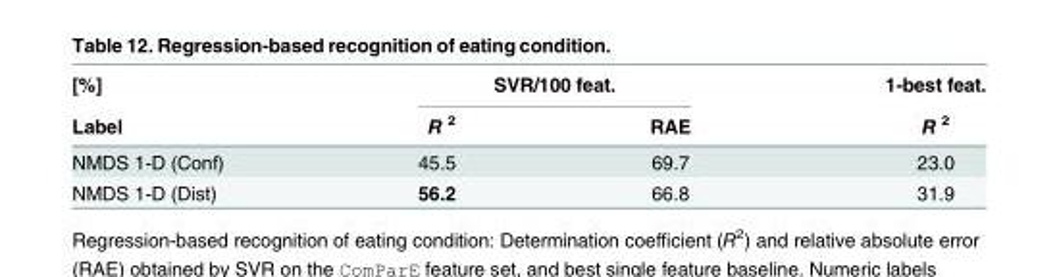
<table><thead><tr><td rowspan="2">[%] Label</td><td colspan="2">SVR/100 feat.</td><td rowspan="2">1-best feat. R <sup>2</sup></td></tr><tr><td>R <sup>2</sup></td><td>RAE</td></tr></thead><tbody><tr><td>NMDS 1-D (Conf)</td><td>45.5</td><td>69.7</td><td>23.0</td></tr><tr><td>NMDS 1-D (Dist)</td><td>56.2</td><td>66.8</td><td>31.9</td></tr></tbody></table>